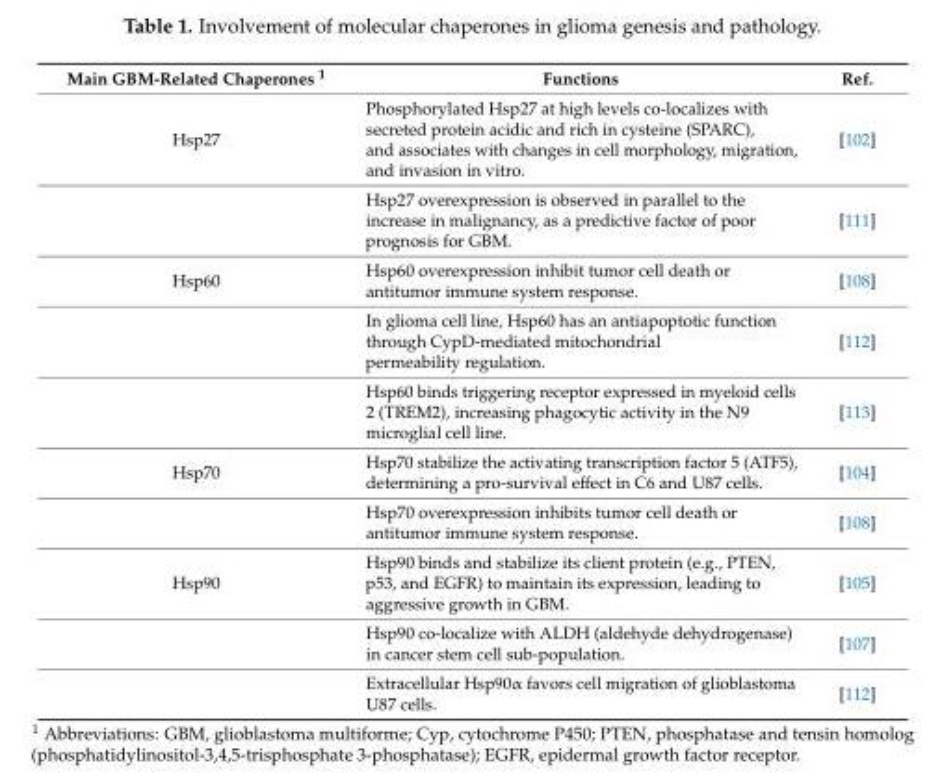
<table><thead><tr><td>Main GBM-Related Chaperones <sup>1</sup></td><td>Functions</td><td>Ref.</td></tr></thead><tbody><tr><td rowspan="2">Hsp27</td><td>Phosphorylated Hsp27 at high levels co-localizes with secreted protein acidic and rich in cysteine (SPARC), and associates with changes in cell morphology, migration, and invasion in vitro.</td><td>[102]</td></tr><tr><td>Hsp27 overexpression is observed in parallel to the increase in malignancy, as a predictive factor of poor prognosis for GBM.</td><td>[111]</td></tr><tr><td rowspan="3">Hsp60</td><td>Hsp60 overexpression inhibit tumor cell death or antitumor immune system response.</td><td>[108]</td></tr><tr><td>In glioma cell line, Hsp60 has an antiapoptotic function through CypD-mediated mitochondrial permeability regulation.</td><td>[112]</td></tr><tr><td>Hsp60 binds triggering receptor expressed in myeloid cells 2 (TREM2), increasing phagocytic activity in the N9 microglial cell line.</td><td>[113]</td></tr><tr><td rowspan="2">Hsp70</td><td>Hsp70 stabilize the activating transcription factor 5 (ATF5), determining a pro-survival effect in C6 and U87 cells.</td><td>[104]</td></tr><tr><td>Hsp70 overexpression inhibits tumor cell death or antitumor immune system response.</td><td>[108]</td></tr><tr><td rowspan="3">Hsp90</td><td>Hsp90 binds and stabilize its client protein (e.g., PTEN, p53, and EGFR) to maintain its expression, leading to aggressive growth in GBM.</td><td>[105]</td></tr><tr><td>Hsp90 co-localize with ALDH (aldehyde dehydrogenase) in cancer stem cell sub-population.</td><td>[107]</td></tr><tr><td>Extracellular Hsp90α favors cell migration of glioblastoma U87 cells.</td><td>[112]</td></tr></tbody></table>